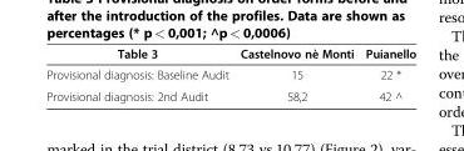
<table><thead><tr><td>Table 3</td><td>Castelnovo nè Monti</td><td>Puianello</td></tr></thead><tbody><tr><td>Provisional diagnosis: Baseline Audit</td><td>15</td><td>22 *</td></tr><tr><td>Provisional diagnosis: 2nd Audit</td><td>58,2</td><td>42 ^</td></tr></tbody></table>